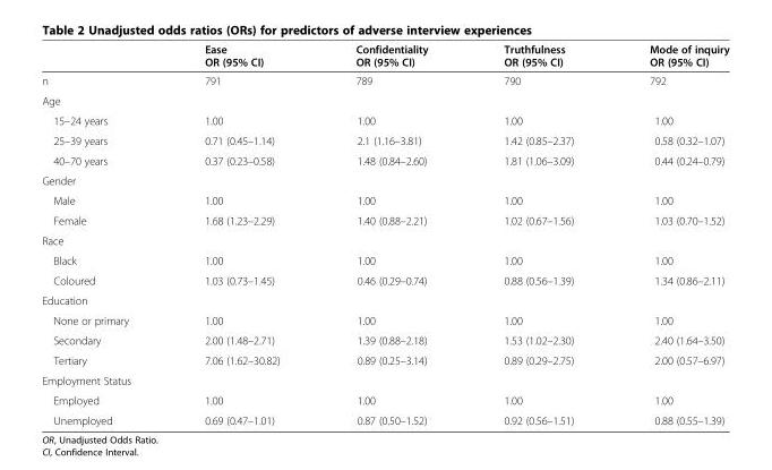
<table><thead><tr><td></td><td>Ease OR (95% CI)</td><td>Confidentiality OR (95% CI)</td><td>Truthfulness OR (95% CI)</td><td>Mode of inquiry OR (95% CI)</td></tr></thead><tbody><tr><td>n</td><td>791</td><td>789</td><td>790</td><td>792</td></tr><tr><td colspan="5">Age</td></tr><tr><td>15–24 years</td><td>1.00</td><td>1.00</td><td>1.00</td><td>1.00</td></tr><tr><td>25–39 years</td><td>0.71 (0.45–1.14)</td><td>2.1 (1.16–3.81)</td><td>1.42 (0.85–2.37)</td><td>0.58 (0.32–1.07)</td></tr><tr><td>40–70 years</td><td>0.37 (0.23–0.58)</td><td>1.48 (0.84–2.60)</td><td>1.81 (1.06–3.09)</td><td>0.44 (0.24–0.79)</td></tr><tr><td colspan="5">Gender</td></tr><tr><td>Male</td><td>1.00</td><td>1.00</td><td>1.00</td><td>1.00</td></tr><tr><td>Female</td><td>1.68 (1.23–2.29)</td><td>1.40 (0.88–2.21)</td><td>1.02 (0.67–1.56)</td><td>1.03 (0.70–1.52)</td></tr><tr><td colspan="5">Race</td></tr><tr><td>Black</td><td>1.00</td><td>1.00</td><td>1.00</td><td>1.00</td></tr><tr><td>Coloured</td><td>1.03 (0.73–1.45)</td><td>0.46 (0.29–0.74)</td><td>0.88 (0.56–1.39)</td><td>1.34 (0.86–2.11)</td></tr><tr><td colspan="5">Education</td></tr><tr><td>None or primary</td><td>1.00</td><td>1.00</td><td>1.00</td><td>1.00</td></tr><tr><td>Secondary</td><td>2.00 (1.48–2.71)</td><td>1.39 (0.88–2.18)</td><td>1.53 (1.02–2.30)</td><td>2.40 (1.64–3.50)</td></tr><tr><td>Tertiary</td><td>7.06 (1.62–30.82)</td><td>0.89 (0.25–3.14)</td><td>0.89 (0.29–2.75)</td><td>2.00 (0.57–6.97)</td></tr><tr><td colspan="5">Employment Status</td></tr><tr><td>Employed</td><td>1.00</td><td>1.00</td><td>1.00</td><td>1.00</td></tr><tr><td>Unemployed</td><td>0.69 (0.47–1.01)</td><td>0.87 (0.50–1.52)</td><td>0.92 (0.56–1.51)</td><td>0.88 (0.55–1.39)</td></tr></tbody></table>